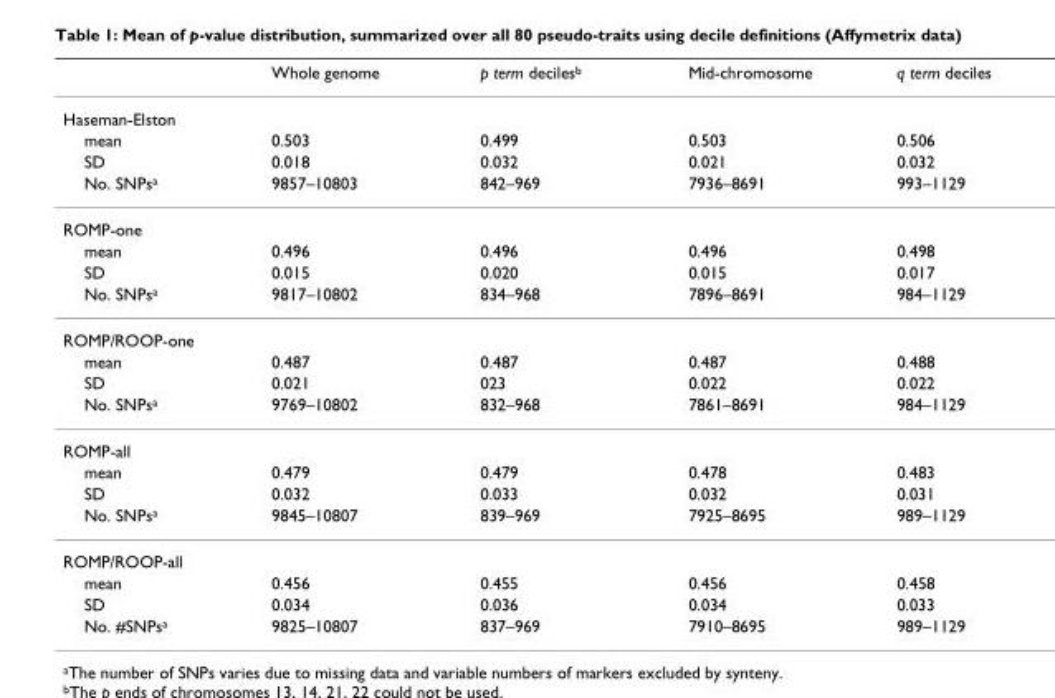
<table><thead><tr><td></td><td>Whole genome</td><td>p term decilesb</td><td>Mid-chromosome</td><td>q term deciles</td></tr></thead><tbody><tr><td colspan="5">Haseman-Elston</td></tr><tr><td>mean</td><td>0.503</td><td>0.499</td><td>0.503</td><td>0.506</td></tr><tr><td>SD</td><td>0.018</td><td>0.032</td><td>0.021</td><td>0.032</td></tr><tr><td>No. SNPsa</td><td>9857–10803</td><td>842–969</td><td>7936–8691</td><td>993–1129</td></tr><tr><td colspan="5">ROMP-one</td></tr><tr><td>mean</td><td>0.496</td><td>0.496</td><td>0.496</td><td>0.498</td></tr><tr><td>SD</td><td>0.015</td><td>0.020</td><td>0.015</td><td>0.017</td></tr><tr><td>No. SNPsa</td><td>9817–10802</td><td>834–968</td><td>7896–8691</td><td>984–1129</td></tr><tr><td colspan="5">ROMP/ROOP-one</td></tr><tr><td>mean</td><td>0.487</td><td>0.487</td><td>0.487</td><td>0.488</td></tr><tr><td>SD</td><td>0.021</td><td>023</td><td>0.022</td><td>0.022</td></tr><tr><td>No. SNPsa</td><td>9769–10802</td><td>832–968</td><td>7861–8691</td><td>984–1129</td></tr><tr><td colspan="5">ROMP-all</td></tr><tr><td>mean</td><td>0.479</td><td>0.479</td><td>0.478</td><td>0.483</td></tr><tr><td>SD</td><td>0.032</td><td>0.033</td><td>0.032</td><td>0.031</td></tr><tr><td>No. SNPsa</td><td>9845–10807</td><td>839–969</td><td>7925–8695</td><td>989–1129</td></tr><tr><td colspan="5">ROMP/ROOP-all</td></tr><tr><td>mean</td><td>0.456</td><td>0.455</td><td>0.456</td><td>0.458</td></tr><tr><td>SD</td><td>0.034</td><td>0.036</td><td>0.034</td><td>0.033</td></tr><tr><td>No. #SNPsa</td><td>9825–10807</td><td>837–969</td><td>7910–8695</td><td>989–1129</td></tr></tbody></table>